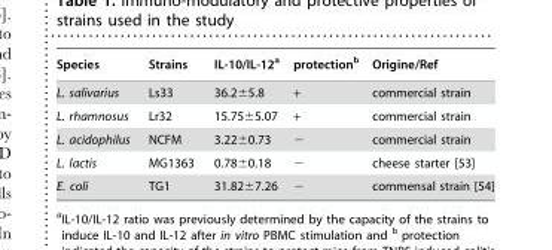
<table><thead><tr><td>Species</td><td>Strains</td><td>IL-10/IL-12<sup>a</sup></td><td>protection<sup>b</sup></td><td>Origine/Ref</td></tr></thead><tbody><tr><td>L. salivarius</td><td>Ls33</td><td>36.2±5.8</td><td>+</td><td>commercial strain</td></tr><tr><td>L. rhamnosus</td><td>Lr32</td><td>15.75±5.07</td><td>+</td><td>commercial strain</td></tr><tr><td>L. acidophilus</td><td>NCFM</td><td>3.22±0.73</td><td>−</td><td>commercial strain</td></tr><tr><td>L. lactis</td><td>MG1363</td><td>0.78±0.18</td><td>−</td><td>cheese starter [53]</td></tr><tr><td>E. coli</td><td>TG1</td><td>31.82±7.26</td><td>−</td><td>commensal strain [54]</td></tr></tbody></table>